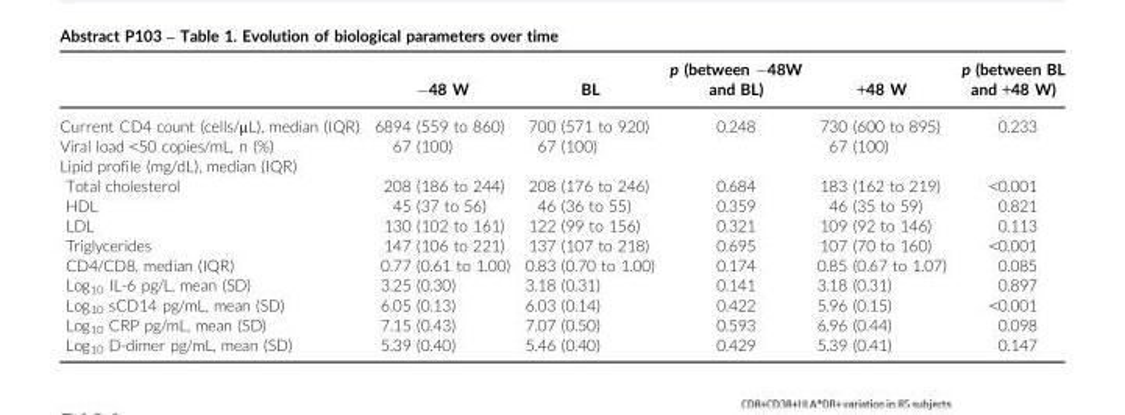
<table><thead><tr><td></td><td>−48 W</td><td>BL</td><td>p (between −48W and BL)</td><td>+48 W</td><td>p (between BL and +48 W)</td></tr></thead><tbody><tr><td>Current CD4 count (cells/μL), median (IQR)</td><td>6894 (559 to 860)</td><td>700 (571 to 920)</td><td>0.248</td><td>730 (600 to 895)</td><td>0.233</td></tr><tr><td>Viral load &lt;50 copies/mL, n (%)</td><td>67 (100)</td><td>67 (100)</td><td></td><td>67 (100)</td><td></td></tr><tr><td colspan="6">Lipid profile (mg/dL), median (IQR)</td></tr><tr><td>Total cholesterol</td><td>208 (186 to 244)</td><td>208 (176 to 246)</td><td>0.684</td><td>183 (162 to 219)</td><td>&lt;0.001</td></tr><tr><td>HDL</td><td>45 (37 to 56)</td><td>46 (36 to 55)</td><td>0.359</td><td>46 (35 to 59)</td><td>0.821</td></tr><tr><td>LDL</td><td>130 (102 to 161)</td><td>122 (99 to 156)</td><td>0.321</td><td>109 (92 to 146)</td><td>0.113</td></tr><tr><td>Triglycerides</td><td>147 (106 to 221)</td><td>137 (107 to 218)</td><td>0.695</td><td>107 (70 to 160)</td><td>&lt;0.001</td></tr><tr><td>CD4/CD8, median (IQR)</td><td>0.77 (0.61 to 1.00)</td><td>0.83 (0.70 to 1.00)</td><td>0.174</td><td>0.85 (0.67 to 1.07)</td><td>0.085</td></tr><tr><td>Log10 IL-6 pg/L, mean (SD)</td><td>3.25 (0.30)</td><td>3.18 (0.31)</td><td>0.141</td><td>3.18 (0.31)</td><td>0.897</td></tr><tr><td>Log10 sCD14 pg/mL, mean (SD)</td><td>6.05 (0.13)</td><td>6.03 (0.14)</td><td>0.422</td><td>5.96 (0.15)</td><td>&lt;0.001</td></tr><tr><td>Log10 CRP pg/mL, mean (SD)</td><td>7.15 (0.43)</td><td>7.07 (0.50)</td><td>0.593</td><td>6.96 (0.44)</td><td>0.098</td></tr><tr><td>Log10 D-dimer pg/mL, mean (SD)</td><td>5.39 (0.40)</td><td>5.46 (0.40)</td><td>0.429</td><td>5.39 (0.41)</td><td>0.147</td></tr></tbody></table>